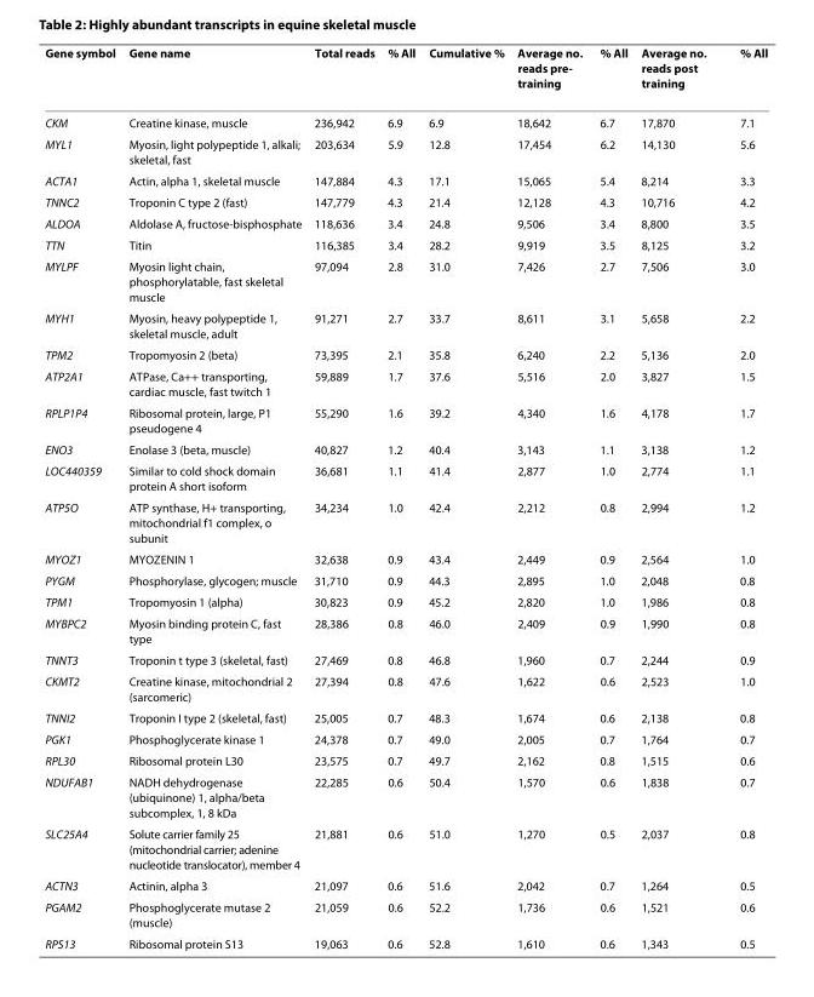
<table><thead><tr><td>Gene symbol</td><td>Gene name</td><td>Total reads</td><td>% All</td><td>Cumulative %</td><td>Average no. reads pre- training</td><td>% All</td><td>Average no. reads post training</td><td>% All</td></tr></thead><tbody><tr><td>CKM</td><td>Creatine kinase, muscle</td><td>236,942</td><td>6.9</td><td>6.9</td><td>18,642</td><td>6.7</td><td>17,870</td><td>7.1</td></tr><tr><td>MYL1</td><td>Myosin, light polypeptide 1, alkali; skeletal, fast</td><td>203,634</td><td>5.9</td><td>12.8</td><td>17,454</td><td>6.2</td><td>14,130</td><td>5.6</td></tr><tr><td>ACTA1</td><td>Actin, alpha 1, skeletal muscle</td><td>147,884</td><td>4.3</td><td>17.1</td><td>15,065</td><td>5.4</td><td>8,214</td><td>3.3</td></tr><tr><td>TNNC2</td><td>Troponin C type 2 (fast)</td><td>147,779</td><td>4.3</td><td>21.4</td><td>12,128</td><td>4.3</td><td>10,716</td><td>4.2</td></tr><tr><td>ALDOA</td><td>Aldolase A, fructose-bisphosphate</td><td>118,636</td><td>3.4</td><td>24.8</td><td>9,506</td><td>3.4</td><td>8,800</td><td>3.5</td></tr><tr><td>TTN</td><td>Titin</td><td>116,385</td><td>3.4</td><td>28.2</td><td>9,919</td><td>3.5</td><td>8,125</td><td>3.2</td></tr><tr><td>MYLPF</td><td>Myosin light chain, phosphorylatable, fast skeletal muscle</td><td>97,094</td><td>2.8</td><td>31.0</td><td>7,426</td><td>2.7</td><td>7,506</td><td>3.0</td></tr><tr><td>MYH1</td><td>Myosin, heavy polypeptide 1, skeletal muscle, adult</td><td>91,271</td><td>2.7</td><td>33.7</td><td>8,611</td><td>3.1</td><td>5,658</td><td>2.2</td></tr><tr><td>TPM2</td><td>Tropomyosin 2 (beta)</td><td>73,395</td><td>2.1</td><td>35.8</td><td>6,240</td><td>2.2</td><td>5,136</td><td>2.0</td></tr><tr><td>ATP2A1</td><td>ATPase, Ca++ transporting, cardiac muscle, fast twitch 1</td><td>59,889</td><td>1.7</td><td>37.6</td><td>5,516</td><td>2.0</td><td>3,827</td><td>1.5</td></tr><tr><td>RPLP1P4</td><td>Ribosomal protein, large, P1 pseudogene 4</td><td>55,290</td><td>1.6</td><td>39.2</td><td>4,340</td><td>1.6</td><td>4,178</td><td>1.7</td></tr><tr><td>ENO3</td><td>Enolase 3 (beta, muscle)</td><td>40,827</td><td>1.2</td><td>40.4</td><td>3,143</td><td>1.1</td><td>3,138</td><td>1.2</td></tr><tr><td>LOC440359</td><td>Similar to cold shock domain protein A short isoform</td><td>36,681</td><td>1.1</td><td>41.4</td><td>2,877</td><td>1.0</td><td>2,774</td><td>1.1</td></tr><tr><td>ATP5O</td><td>ATP synthase, H+ transporting, mitochondrial f1 complex, o subunit</td><td>34,234</td><td>1.0</td><td>42.4</td><td>2,212</td><td>0.8</td><td>2,994</td><td>1.2</td></tr><tr><td>MYOZ1</td><td>MYOZENIN 1</td><td>32,638</td><td>0.9</td><td>43.4</td><td>2,449</td><td>0.9</td><td>2,564</td><td>1.0</td></tr><tr><td>PYGM</td><td>Phosphorylase, glycogen; muscle</td><td>31,710</td><td>0.9</td><td>44.3</td><td>2,895</td><td>1.0</td><td>2,048</td><td>0.8</td></tr><tr><td>TPM1</td><td>Tropomyosin 1 (alpha)</td><td>30,823</td><td>0.9</td><td>45.2</td><td>2,820</td><td>1.0</td><td>1,986</td><td>0.8</td></tr><tr><td>MYBPC2</td><td>Myosin binding protein C, fast type</td><td>28,386</td><td>0.8</td><td>46.0</td><td>2,409</td><td>0.9</td><td>1,990</td><td>0.8</td></tr><tr><td>TNNT3</td><td>Troponin t type 3 (skeletal, fast)</td><td>27,469</td><td>0.8</td><td>46.8</td><td>1,960</td><td>0.7</td><td>2,244</td><td>0.9</td></tr><tr><td>CKMT2</td><td>Creatine kinase, mitochondrial 2 (sarcomeric)</td><td>27,394</td><td>0.8</td><td>47.6</td><td>1,622</td><td>0.6</td><td>2,523</td><td>1.0</td></tr><tr><td>TNNI2</td><td>Troponin I type 2 (skeletal, fast)</td><td>25,005</td><td>0.7</td><td>48.3</td><td>1,674</td><td>0.6</td><td>2,138</td><td>0.8</td></tr><tr><td>PGK1</td><td>Phosphoglycerate kinase 1</td><td>24,378</td><td>0.7</td><td>49.0</td><td>2,005</td><td>0.7</td><td>1,764</td><td>0.7</td></tr><tr><td>RPL30</td><td>Ribosomal protein L30</td><td>23,575</td><td>0.7</td><td>49.7</td><td>2,162</td><td>0.8</td><td>1,515</td><td>0.6</td></tr><tr><td>NDUFAB1</td><td>NADH dehydrogenase (ubiquinone) 1, alpha/beta subcomplex, 1, 8 kDa</td><td>22,285</td><td>0.6</td><td>50.4</td><td>1,570</td><td>0.6</td><td>1,838</td><td>0.7</td></tr><tr><td>SLC25A4</td><td>Solute carrier family 25 (mitochondrial carrier; adenine nucleotide translocator), member 4</td><td>21,881</td><td>0.6</td><td>51.0</td><td>1,270</td><td>0.5</td><td>2,037</td><td>0.8</td></tr><tr><td>ACTN3</td><td>Actinin, alpha 3</td><td>21,097</td><td>0.6</td><td>51.6</td><td>2,042</td><td>0.7</td><td>1,264</td><td>0.5</td></tr><tr><td>PGAM2</td><td>Phosphoglycerate mutase 2 (muscle)</td><td>21,059</td><td>0.6</td><td>52.2</td><td>1,736</td><td>0.6</td><td>1,521</td><td>0.6</td></tr><tr><td>RPS13</td><td>Ribosomal protein S13</td><td>19,063</td><td>0.6</td><td>52.8</td><td>1,610</td><td>0.6</td><td>1,343</td><td>0.5</td></tr></tbody></table>